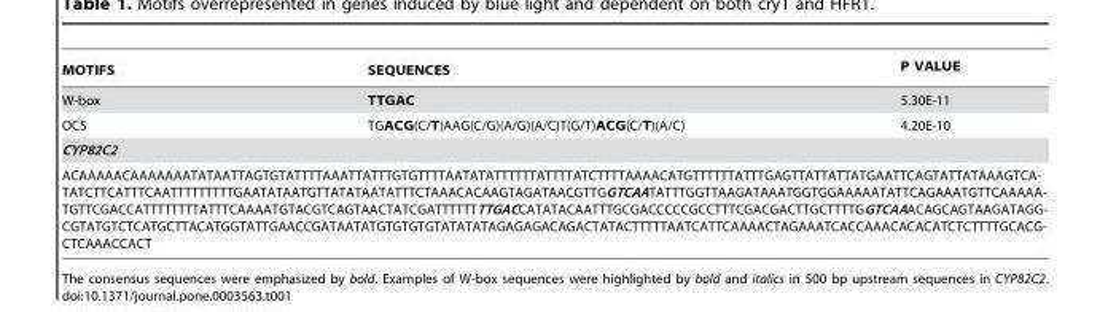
<table><thead><tr><td>MOTIFS</td><td>SEQUENCES</td><td>P VALUE</td></tr></thead><tbody><tr><td>W-box</td><td>TTGAC</td><td>5.30E-11</td></tr><tr><td>OCS</td><td>TGACG(C/T)AAG(C/G)(A/G)(A/C)T(G/T)ACG(C/T)(A/C)</td><td>4.20E-10</td></tr><tr><td colspan="3">CYP82C2</td></tr><tr><td colspan="3">ACAAAAACAAAAAAATATAATTAGTGTATTTTAAATTATTTGTGTTTTAATATATTTTTTATTTTATCTTTTAAAACATGTTTTTTATTTGAGTTATTATTATGAATTCAGTATTATAAAGTCA- TATCTTCATTTCAATTTTTTTTTGAATATAATGTTATATAATATTTCTAAACACAAGTAGATAACGTTGGTCAATATTTGGTTAAGATAAATGGTGGAAAAATATTCAGAAATGTTCAAAAA- TGTTCGACCATTTTTTTTATTTCAAAATGTACGTCAGTAACTATCGATTTTTTTTGACCATATACAATTTGCGACCCCCGCCTTTCGACGACTTGCTTTTGGTCAAACAGCAGTAAGATAGG- CGTATGTCTCATGCTTACATGGTATTGAACCGATAATATGTGTGTGTATATATAGAGAGACAGACTATACTTTTTAATCATTCAAAACTAGAAATCACCAAACACACATCTCTTTTGCACG- CTCAAACCACT</td></tr></tbody></table>